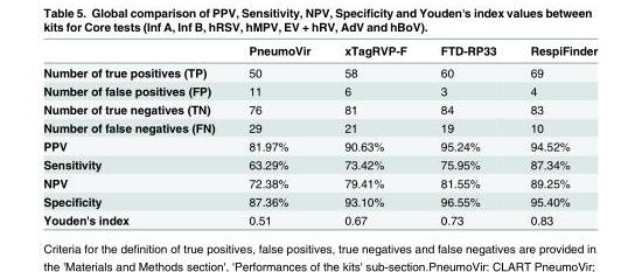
<table><thead><tr><td></td><td>PneumoVir</td><td>xTagRVP-F</td><td>FTD-RP33</td><td>RespiFinder</td></tr></thead><tbody><tr><td>Number of true positives (TP)</td><td>50</td><td>58</td><td>60</td><td>69</td></tr><tr><td>Number of false positives (FP)</td><td>11</td><td>6</td><td>3</td><td>4</td></tr><tr><td>Number of true negatives (TN)</td><td>76</td><td>81</td><td>84</td><td>83</td></tr><tr><td>Number of false negatives (FN)</td><td>29</td><td>21</td><td>19</td><td>10</td></tr><tr><td>PPV</td><td>81.97%</td><td>90.63%</td><td>95.24%</td><td>94.52%</td></tr><tr><td>Sensitivity</td><td>63.29%</td><td>73.42%</td><td>75.95%</td><td>87.34%</td></tr><tr><td>NPV</td><td>72.38%</td><td>79.41%</td><td>81.55%</td><td>89.25%</td></tr><tr><td>Specificity</td><td>87.36%</td><td>93.10%</td><td>96.55%</td><td>95.40%</td></tr><tr><td>Youden&#x27;s index</td><td>0.51</td><td>0.67</td><td>0.73</td><td>0.83</td></tr></tbody></table>